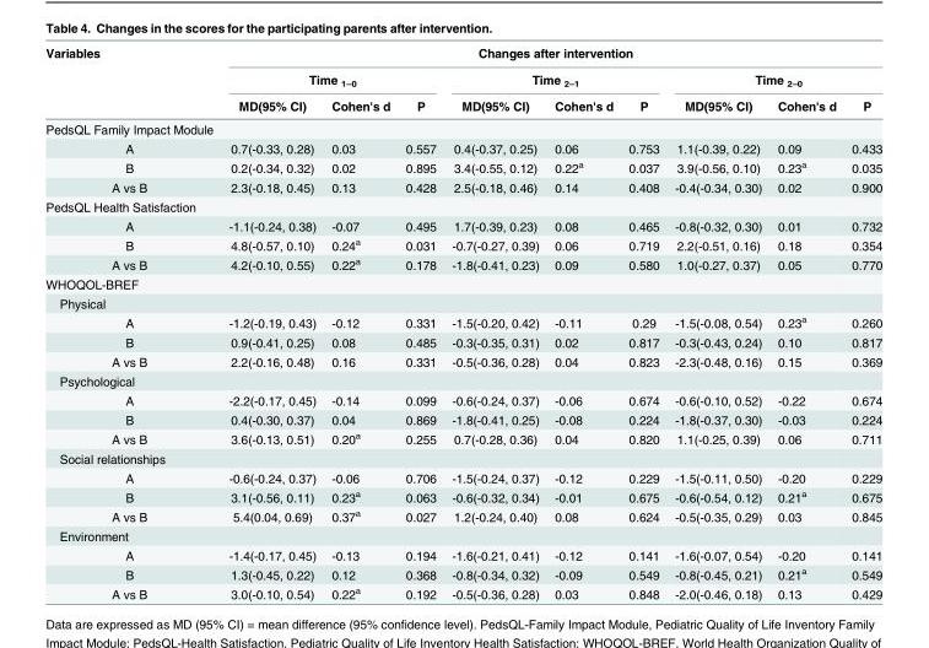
<table><thead><tr><td rowspan="3">Variables</td><td colspan="9">Changes after intervention</td></tr><tr><td colspan="3">Time <sub>1–0</sub></td><td colspan="3">Time <sub>2–1</sub></td><td colspan="3">Time <sub>2–0</sub></td></tr><tr><td>MD(95% CI)</td><td>Cohen&#x27;s d</td><td>P</td><td>MD(95% CI)</td><td>Cohen&#x27;s d</td><td>P</td><td>MD(95% CI)</td><td>Cohen&#x27;s d</td><td>P</td></tr></thead><tbody><tr><td colspan="10">PedsQL Family Impact Module</td></tr><tr><td>A</td><td>0.7(-0.33, 0.28)</td><td>0.03</td><td>0.557</td><td>0.4(-0.37, 0.25)</td><td>0.06</td><td>0.753</td><td>1.1(-0.39, 0.22)</td><td>0.09</td><td>0.433</td></tr><tr><td>B</td><td>0.2(-0.34, 0.32)</td><td>0.02</td><td>0.895</td><td>3.4(-0.55, 0.12)</td><td>0.22<sup>a</sup></td><td>0.037</td><td>3.9(-0.56, 0.10)</td><td>0.23<sup>a</sup></td><td>0.035</td></tr><tr><td>A vs B</td><td>2.3(-0.18, 0.45)</td><td>0.13</td><td>0.428</td><td>2.5(-0.18, 0.46)</td><td>0.14</td><td>0.408</td><td>-0.4(-0.34, 0.30)</td><td>0.02</td><td>0.900</td></tr><tr><td colspan="10">PedsQL Health Satisfaction</td></tr><tr><td>A</td><td>-1.1(-0.24, 0.38)</td><td>-0.07</td><td>0.495</td><td>1.7(-0.39, 0.23)</td><td>0.08</td><td>0.465</td><td>-0.8(-0.32, 0.30)</td><td>0.01</td><td>0.732</td></tr><tr><td>B</td><td>4.8(-0.57, 0.10)</td><td>0.24<sup>a</sup></td><td>0.031</td><td>-0.7(-0.27, 0.39)</td><td>0.06</td><td>0.719</td><td>2.2(-0.51, 0.16)</td><td>0.18</td><td>0.354</td></tr><tr><td>A vs B</td><td>4.2(-0.10, 0.55)</td><td>0.22<sup>a</sup></td><td>0.178</td><td>-1.8(-0.41, 0.23)</td><td>0.09</td><td>0.580</td><td>1.0(-0.27, 0.37)</td><td>0.05</td><td>0.770</td></tr><tr><td colspan="10">WHOQOL-BREF</td></tr><tr><td colspan="10">Physical</td></tr><tr><td>A</td><td>-1.2(-0.19, 0.43)</td><td>-0.12</td><td>0.331</td><td>-1.5(-0.20, 0.42)</td><td>-0.11</td><td>0.29</td><td>-1.5(-0.08, 0.54)</td><td>0.23<sup>a</sup></td><td>0.260</td></tr><tr><td>B</td><td>0.9(-0.41, 0.25)</td><td>0.08</td><td>0.485</td><td>-0.3(-0.35, 0.31)</td><td>0.02</td><td>0.817</td><td>-0.3(-0.43, 0.24)</td><td>0.10</td><td>0.817</td></tr><tr><td>A vs B</td><td>2.2(-0.16, 0.48)</td><td>0.16</td><td>0.331</td><td>-0.5(-0.36, 0.28)</td><td>0.04</td><td>0.823</td><td>-2.3(-0.48, 0.16)</td><td>0.15</td><td>0.369</td></tr><tr><td colspan="10">Psychological</td></tr><tr><td>A</td><td>-2.2(-0.17, 0.45)</td><td>-0.14</td><td>0.099</td><td>-0.6(-0.24, 0.37)</td><td>-0.06</td><td>0.674</td><td>-0.6(-0.10, 0.52)</td><td>-0.22</td><td>0.674</td></tr><tr><td>B</td><td>0.4(-0.30, 0.37)</td><td>0.04</td><td>0.869</td><td>-1.8(-0.41, 0.25)</td><td>-0.08</td><td>0.224</td><td>-1.8(-0.37, 0.30)</td><td>-0.03</td><td>0.224</td></tr><tr><td>A vs B</td><td>3.6(-0.13, 0.51)</td><td>0.20<sup>a</sup></td><td>0.255</td><td>0.7(-0.28, 0.36)</td><td>0.04</td><td>0.820</td><td>1.1(-0.25, 0.39)</td><td>0.06</td><td>0.711</td></tr><tr><td colspan="10">Social relationships</td></tr><tr><td>A</td><td>-0.6(-0.24, 0.37)</td><td>-0.06</td><td>0.706</td><td>-1.5(-0.24, 0.37)</td><td>-0.12</td><td>0.229</td><td>-1.5(-0.11, 0.50)</td><td>-0.20</td><td>0.229</td></tr><tr><td>B</td><td>3.1(-0.56, 0.11)</td><td>0.23<sup>a</sup></td><td>0.063</td><td>-0.6(-0.32, 0.34)</td><td>-0.01</td><td>0.675</td><td>-0.6(-0.54, 0.12)</td><td>0.21<sup>a</sup></td><td>0.675</td></tr><tr><td>A vs B</td><td>5.4(0.04, 0.69)</td><td>0.37<sup>a</sup></td><td>0.027</td><td>1.2(-0.24, 0.40)</td><td>0.08</td><td>0.624</td><td>-0.5(-0.35, 0.29)</td><td>0.03</td><td>0.845</td></tr><tr><td colspan="10">Environment</td></tr><tr><td>A</td><td>-1.4(-0.17, 0.45)</td><td>-0.13</td><td>0.194</td><td>-1.6(-0.21, 0.41)</td><td>-0.12</td><td>0.141</td><td>-1.6(-0.07, 0.54)</td><td>-0.20</td><td>0.141</td></tr><tr><td>B</td><td>1.3(-0.45, 0.22)</td><td>0.12</td><td>0.368</td><td>-0.8(-0.34, 0.32)</td><td>-0.09</td><td>0.549</td><td>-0.8(-0.45, 0.21)</td><td>0.21<sup>a</sup></td><td>0.549</td></tr><tr><td>A vs B</td><td>3.0(-0.10, 0.54)</td><td>0.22<sup>a</sup></td><td>0.192</td><td>-0.5(-0.36, 0.28)</td><td>0.03</td><td>0.848</td><td>-2.0(-0.46, 0.18)</td><td>0.13</td><td>0.429</td></tr></tbody></table>